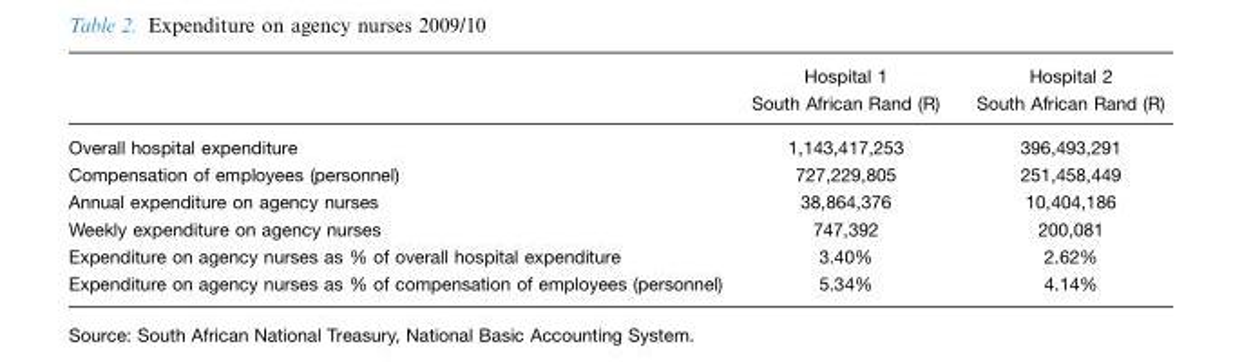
<table><thead><tr><td></td><td>Hospital 1 South African Rand (R)</td><td>Hospital 2 South African Rand (R)</td></tr></thead><tbody><tr><td>Overall hospital expenditure</td><td>1,143,417,253</td><td>396,493,291</td></tr><tr><td>Compensation of employees (personnel)</td><td>727,229,805</td><td>251,458,449</td></tr><tr><td>Annual expenditure on agency nurses</td><td>38,864,376</td><td>10,404,186</td></tr><tr><td>Weekly expenditure on agency nurses</td><td>747,392</td><td>200,081</td></tr><tr><td>Expenditure on agency nurses as % of overall hospital expenditure</td><td>3.40%</td><td>2.62%</td></tr><tr><td>Expenditure on agency nurses as % of compensation of employees (personnel)</td><td>5.34%</td><td>4.14%</td></tr></tbody></table>